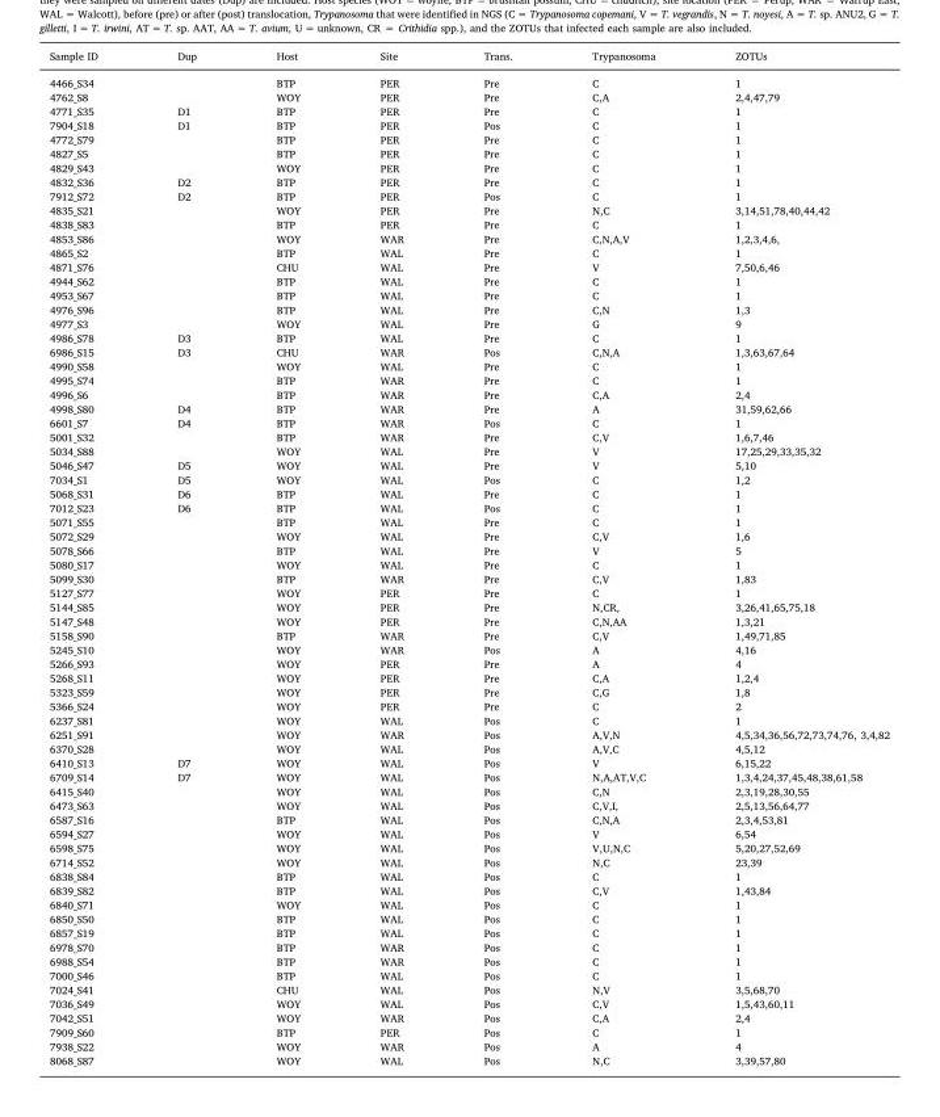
<table><thead><tr><td>Sample ID</td><td>Dup</td><td>Host</td><td>Site</td><td>Trans.</td><td>Trypanosoma</td><td>ZOTUs</td></tr></thead><tbody><tr><td>4466_S34</td><td></td><td>BTP</td><td>PER</td><td>Pre</td><td>C</td><td>1</td></tr><tr><td>4762_S8</td><td></td><td>WOY</td><td>PER</td><td>Pre</td><td>C,A</td><td>2,4,47,79</td></tr><tr><td>4771_S35</td><td>D1</td><td>BTP</td><td>PER</td><td>Pre</td><td>C</td><td>1</td></tr><tr><td>7904_S18</td><td>D1</td><td>BTP</td><td>PER</td><td>Pos</td><td>C</td><td>1</td></tr><tr><td>4772_S79</td><td></td><td>BTP</td><td>PER</td><td>Pre</td><td>C</td><td>1</td></tr><tr><td>4827_S5</td><td></td><td>BTP</td><td>PER</td><td>Pre</td><td>C</td><td>1</td></tr><tr><td>4829_S43</td><td></td><td>WOY</td><td>PER</td><td>Pre</td><td>C</td><td>1</td></tr><tr><td>4832_S36</td><td>D2</td><td>BTP</td><td>PER</td><td>Pre</td><td>C</td><td>1</td></tr><tr><td>7912_S72</td><td>D2</td><td>BTP</td><td>PER</td><td>Pos</td><td>C</td><td>1</td></tr><tr><td>4835_S21</td><td></td><td>WOY</td><td>PER</td><td>Pre</td><td>N,C</td><td>3,14,51,78,40,44,42</td></tr><tr><td>4838_S83</td><td></td><td>BTP</td><td>PER</td><td>Pre</td><td>C</td><td>1</td></tr><tr><td>4853_S86</td><td></td><td>WOY</td><td>WAR</td><td>Pre</td><td>C,N,A,V</td><td>1,2,3,4,6,</td></tr><tr><td>4865_S2</td><td></td><td>BTP</td><td>WAL</td><td>Pre</td><td>C</td><td>1</td></tr><tr><td>4871_S76</td><td></td><td>CHU</td><td>WAL</td><td>Pre</td><td>V</td><td>7,50,6,46</td></tr><tr><td>4944_S62</td><td></td><td>BTP</td><td>WAL</td><td>Pre</td><td>C</td><td>1</td></tr><tr><td>4953_S67</td><td></td><td>BTP</td><td>WAL</td><td>Pre</td><td>C</td><td>1</td></tr><tr><td>4976_S96</td><td></td><td>BTP</td><td>WAL</td><td>Pre</td><td>C,N</td><td>1,3</td></tr><tr><td>4977_S3</td><td></td><td>WOY</td><td>WAL</td><td>Pre</td><td>G</td><td>9</td></tr><tr><td>4986_S78</td><td>D3</td><td>BTP</td><td>WAL</td><td>Pre</td><td>C</td><td>1</td></tr><tr><td>6986_S15</td><td>D3</td><td>CHU</td><td>WAR</td><td>Pos</td><td>C,N,A</td><td>1,3,63,67,64</td></tr><tr><td>4990_S58</td><td></td><td>WOY</td><td>WAL</td><td>Pre</td><td>C</td><td>1</td></tr><tr><td>4995_S74</td><td></td><td>BTP</td><td>WAR</td><td>Pre</td><td>C</td><td>1</td></tr><tr><td>4996_S6</td><td></td><td>BTP</td><td>WAR</td><td>Pre</td><td>C,A</td><td>2,4</td></tr><tr><td>4998_S80</td><td>D4</td><td>BTP</td><td>WAR</td><td>Pre</td><td>A</td><td>31,59,62,66</td></tr><tr><td>6601_S7</td><td>D4</td><td>BTP</td><td>WAR</td><td>Pos</td><td>C</td><td>1</td></tr><tr><td>5001_S32</td><td></td><td>BTP</td><td>WAR</td><td>Pre</td><td>C,V</td><td>1,6,7,46</td></tr><tr><td>5034_S88</td><td></td><td>WOY</td><td>WAL</td><td>Pre</td><td>V</td><td>17,25,29,33,35,32</td></tr><tr><td>5046_S47</td><td>D5</td><td>WOY</td><td>WAL</td><td>Pre</td><td>V</td><td>5,10</td></tr><tr><td>7034_S1</td><td>D5</td><td>WOY</td><td>WAL</td><td>Pos</td><td>C</td><td>1,2</td></tr><tr><td>5068_S31</td><td>D6</td><td>BTP</td><td>WAL</td><td>Pre</td><td>C</td><td>1</td></tr><tr><td>7012_S23</td><td>D6</td><td>BTP</td><td>WAL</td><td>Pos</td><td>C</td><td>1</td></tr><tr><td>5071_S55</td><td></td><td>BTP</td><td>WAL</td><td>Pre</td><td>C</td><td>1</td></tr><tr><td>5072_S29</td><td></td><td>WOY</td><td>WAL</td><td>Pre</td><td>C,V</td><td>1,6</td></tr><tr><td>5078_S66</td><td></td><td>BTP</td><td>WAL</td><td>Pre</td><td>V</td><td>5</td></tr><tr><td>5080_S17</td><td></td><td>WOY</td><td>WAL</td><td>Pre</td><td>C</td><td>1</td></tr><tr><td>5099_S30</td><td></td><td>BTP</td><td>WAR</td><td>Pre</td><td>C,V</td><td>1,83</td></tr><tr><td>5127_S77</td><td></td><td>WOY</td><td>PER</td><td>Pre</td><td>C</td><td>1</td></tr><tr><td>5144_S85</td><td></td><td>WOY</td><td>PER</td><td>Pre</td><td>N,CR,</td><td>3,26,41,65,75,18</td></tr><tr><td>5147_S48</td><td></td><td>WOY</td><td>PER</td><td>Pre</td><td>C,N,AA</td><td>1,3,21</td></tr><tr><td>5158_S90</td><td></td><td>BTP</td><td>WAR</td><td>Pre</td><td>C,V</td><td>1,49,71,85</td></tr><tr><td>5245_S10</td><td></td><td>WOY</td><td>WAR</td><td>Pos</td><td>A</td><td>4,16</td></tr><tr><td>5266_S93</td><td></td><td>WOY</td><td>PER</td><td>Pre</td><td>A</td><td>4</td></tr><tr><td>5268_S11</td><td></td><td>WOY</td><td>PER</td><td>Pre</td><td>C,A</td><td>1,2,4</td></tr><tr><td>5323_S59</td><td></td><td>WOY</td><td>PER</td><td>Pre</td><td>C,G</td><td>1,8</td></tr><tr><td>5366_S24</td><td></td><td>WOY</td><td>PER</td><td>Pre</td><td>C</td><td>2</td></tr><tr><td>6237_S81</td><td></td><td>WOY</td><td>WAL</td><td>Pos</td><td>C</td><td>1</td></tr><tr><td>6251_S91</td><td></td><td>WOY</td><td>WAR</td><td>Pos</td><td>A,V,N</td><td>4,5,34,36,56,72,73,74,76, 3,4,82</td></tr><tr><td>6370_S28</td><td></td><td>WOY</td><td>WAL</td><td>Pos</td><td>A,V,C</td><td>4,5,12</td></tr><tr><td>6410_S13</td><td>D7</td><td>WOY</td><td>WAL</td><td>Pos</td><td>V</td><td>6,15,22</td></tr><tr><td>6709_S14</td><td>D7</td><td>WOY</td><td>WAL</td><td>Pos</td><td>N,A,AT,V,C</td><td>1,3,4,24,37,45,48,38,61,58</td></tr><tr><td>6415_S40</td><td></td><td>WOY</td><td>WAL</td><td>Pos</td><td>C,N</td><td>2,3,19,28,30,55</td></tr><tr><td>6473_S63</td><td></td><td>WOY</td><td>WAL</td><td>Pos</td><td>C,V,I,</td><td>2,5,13,56,64,77</td></tr><tr><td>6587_S16</td><td></td><td>BTP</td><td>WAL</td><td>Pos</td><td>C,N,A</td><td>2,3,4,53,81</td></tr><tr><td>6594_S27</td><td></td><td>WOY</td><td>WAL</td><td>Pos</td><td>V</td><td>6,54</td></tr><tr><td>6598_S75</td><td></td><td>WOY</td><td>WAL</td><td>Pos</td><td>V,U,N,C</td><td>5,20,27,52,69</td></tr><tr><td>6714_S52</td><td></td><td>WOY</td><td>WAL</td><td>Pos</td><td>N,C</td><td>23,39</td></tr><tr><td>6838_S84</td><td></td><td>BTP</td><td>WAL</td><td>Pos</td><td>C</td><td>1</td></tr><tr><td>6839_S82</td><td></td><td>BTP</td><td>WAL</td><td>Pos</td><td>C,V</td><td>1,43,84</td></tr><tr><td>6840_S71</td><td></td><td>WOY</td><td>WAL</td><td>Pos</td><td>C</td><td>1</td></tr><tr><td>6850_S50</td><td></td><td>BTP</td><td>WAL</td><td>Pos</td><td>C</td><td>1</td></tr><tr><td>6857_S19</td><td></td><td>BTP</td><td>WAL</td><td>Pos</td><td>C</td><td>1</td></tr><tr><td>6978_S70</td><td></td><td>BTP</td><td>WAR</td><td>Pos</td><td>C</td><td>1</td></tr><tr><td>6988_S54</td><td></td><td>BTP</td><td>WAR</td><td>Pos</td><td>C</td><td>1</td></tr><tr><td>7000_S46</td><td></td><td>BTP</td><td>WAL</td><td>Pos</td><td>C</td><td>1</td></tr><tr><td>7024_S41</td><td></td><td>CHU</td><td>WAL</td><td>Pos</td><td>N,V</td><td>3,5,68,70</td></tr><tr><td>7036_S49</td><td></td><td>WOY</td><td>WAL</td><td>Pos</td><td>C,V</td><td>1,5,43,60,11</td></tr><tr><td>7042_S51</td><td></td><td>WOY</td><td>WAR</td><td>Pos</td><td>C,A</td><td>2,4</td></tr><tr><td>7909_S60</td><td></td><td>BTP</td><td>PER</td><td>Pos</td><td>C</td><td>1</td></tr><tr><td>7938_S22</td><td></td><td>WOY</td><td>WAR</td><td>Pos</td><td>A</td><td>4</td></tr><tr><td>8068_S87</td><td></td><td>WOY</td><td>WAL</td><td>Pos</td><td>N,C</td><td>3,39,57,80</td></tr></tbody></table>